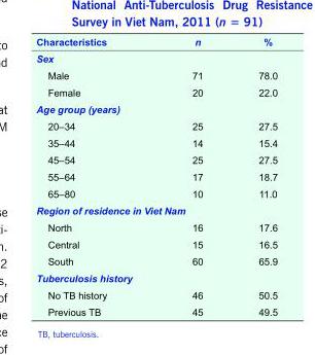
<table><thead><tr><td>Characteristics</td><td>n</td><td>%</td></tr></thead><tbody><tr><td colspan="3">Sex</td></tr><tr><td>Male</td><td>71</td><td>78.0</td></tr><tr><td>Female</td><td>20</td><td>22.0</td></tr><tr><td colspan="3">Age group (years)</td></tr><tr><td>20–34</td><td>25</td><td>27.5</td></tr><tr><td>35–44</td><td>14</td><td>15.4</td></tr><tr><td>45–54</td><td>25</td><td>27.5</td></tr><tr><td>55–64</td><td>17</td><td>18.7</td></tr><tr><td>65–80</td><td>10</td><td>11.0</td></tr><tr><td colspan="3">Region of residence in Viet Nam</td></tr><tr><td>North</td><td>16</td><td>17.6</td></tr><tr><td>Central</td><td>15</td><td>16.5</td></tr><tr><td>South</td><td>60</td><td>65.9</td></tr><tr><td colspan="3">Tuberculosis history</td></tr><tr><td>No TB history</td><td>46</td><td>50.5</td></tr><tr><td>Previous TB</td><td>45</td><td>49.5</td></tr></tbody></table>